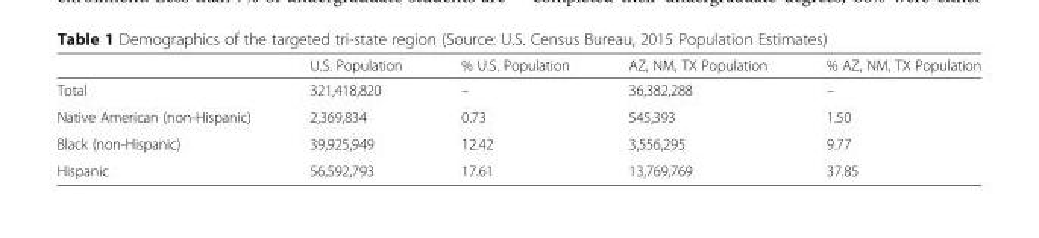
<table><thead><tr><td></td><td>U.S. Population</td><td>% U.S. Population</td><td>AZ, NM, TX Population</td><td>% AZ, NM, TX Population</td></tr></thead><tbody><tr><td>Total</td><td>321,418,820</td><td>–</td><td>36,382,288</td><td>–</td></tr><tr><td>Native American (non-Hispanic)</td><td>2,369,834</td><td>0.73</td><td>545,393</td><td>1.50</td></tr><tr><td>Black (non-Hispanic)</td><td>39,925,949</td><td>12.42</td><td>3,556,295</td><td>9.77</td></tr><tr><td>Hispanic</td><td>56,592,793</td><td>17.61</td><td>13,769,769</td><td>37.85</td></tr></tbody></table>